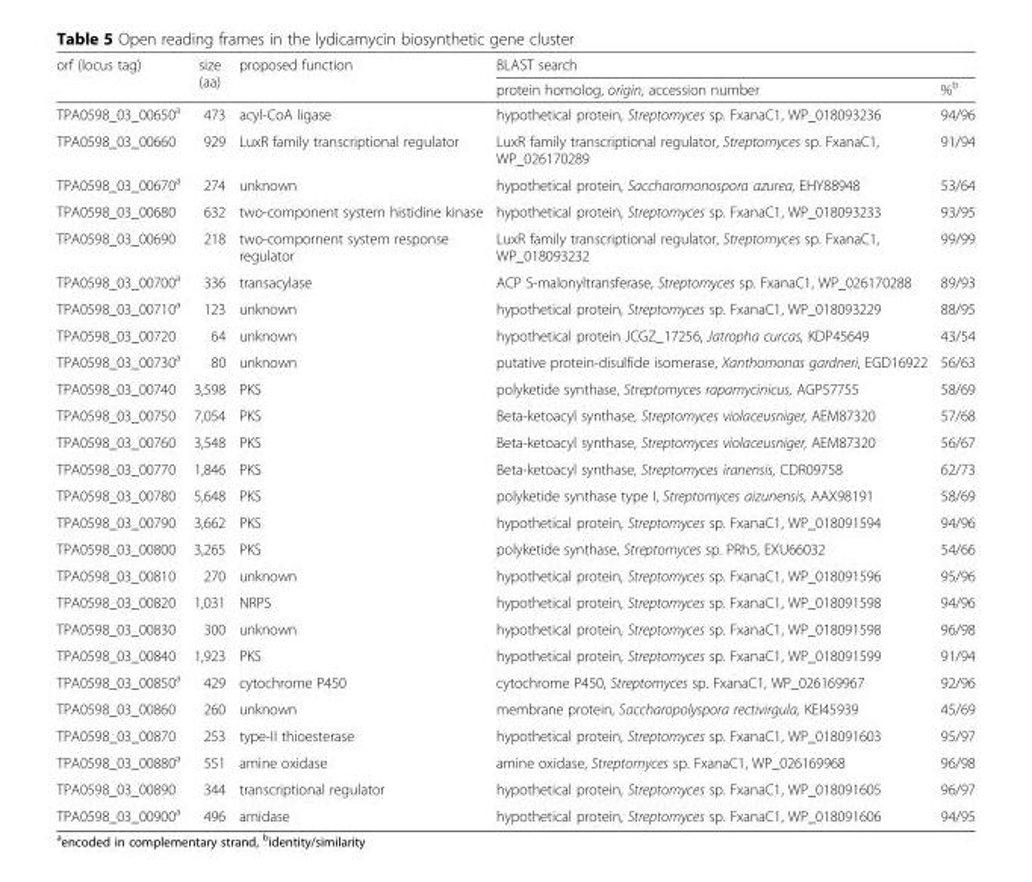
<table><thead><tr><td rowspan="2">orf (locus tag)</td><td rowspan="2">size (aa)</td><td rowspan="2">proposed function</td><td colspan="2">BLAST search</td></tr><tr><td>protein homolog, origin, accession number</td><td>%<sup>b</sup></td></tr></thead><tbody><tr><td>TPA0598_03_00650<sup>a</sup></td><td>473</td><td>acyl-CoA ligase</td><td>hypothetical protein, Streptomyces sp. FxanaC1, WP_018093236</td><td>94/96</td></tr><tr><td>TPA0598_03_00660</td><td>929</td><td>LuxR family transcriptional regulator</td><td>LuxR family transcriptional regulator, Streptomyces sp. FxanaC1, WP_026170289</td><td>91/94</td></tr><tr><td>TPA0598_03_00670<sup>a</sup></td><td>274</td><td>unknown</td><td>hypothetical protein, Saccharomonospora azurea, EHY88948</td><td>53/64</td></tr><tr><td>TPA0598_03_00680</td><td>632</td><td>two-component system histidine kinase</td><td>hypothetical protein, Streptomyces sp. FxanaC1, WP_018093233</td><td>93/95</td></tr><tr><td>TPA0598_03_00690</td><td>218</td><td>two-compornent system response regulator</td><td>LuxR family transcriptional regulator, Streptomyces sp. FxanaC1, WP_018093232</td><td>99/99</td></tr><tr><td>TPA0598_03_00700<sup>a</sup></td><td>336</td><td>transacylase</td><td>ACP S-malonyltransferase, Streptomyces sp. FxanaC1, WP_026170288</td><td>89/93</td></tr><tr><td>TPA0598_03_00710<sup>a</sup></td><td>123</td><td>unknown</td><td>hypothetical protein, Streptomyces sp. FxanaC1, WP_018093229</td><td>88/95</td></tr><tr><td>TPA0598_03_00720</td><td>64</td><td>unknown</td><td>hypothetical protein JCGZ_17256, Jatropha curcas, KDP45649</td><td>43/54</td></tr><tr><td>TPA0598_03_00730<sup>a</sup></td><td>80</td><td>unknown</td><td>putative protein-disulfide isomerase, Xanthomonas gardneri, EGD16922</td><td>56/63</td></tr><tr><td>TPA0598_03_00740</td><td>3,598</td><td>PKS</td><td>polyketide synthase, Streptomyces rapamycinicus, AGP57755</td><td>58/69</td></tr><tr><td>TPA0598_03_00750</td><td>7,054</td><td>PKS</td><td>Beta-ketoacyl synthase, Streptomyces violaceusniger, AEM87320</td><td>57/68</td></tr><tr><td>TPA0598_03_00760</td><td>3,548</td><td>PKS</td><td>Beta-ketoacyl synthase, Streptomyces violaceusniger, AEM87320</td><td>56/67</td></tr><tr><td>TPA0598_03_00770</td><td>1,846</td><td>PKS</td><td>Beta-ketoacyl synthase, Streptomyces iranensis, CDR09758</td><td>62/73</td></tr><tr><td>TPA0598_03_00780</td><td>5,648</td><td>PKS</td><td>polyketide synthase type I, Streptomyces aizunensis, AAX98191</td><td>58/69</td></tr><tr><td>TPA0598_03_00790</td><td>3,662</td><td>PKS</td><td>hypothetical protein, Streptomyces sp. FxanaC1, WP_018091594</td><td>94/96</td></tr><tr><td>TPA0598_03_00800</td><td>3,265</td><td>PKS</td><td>polyketide synthase, Streptomyces sp. PRh5, EXU66032</td><td>54/66</td></tr><tr><td>TPA0598_03_00810</td><td>270</td><td>unknown</td><td>hypothetical protein, Streptomyces sp. FxanaC1, WP_018091596</td><td>95/96</td></tr><tr><td>TPA0598_03_00820</td><td>1,031</td><td>NRPS</td><td>hypothetical protein, Streptomyces sp. FxanaC1, WP_018091598</td><td>94/96</td></tr><tr><td>TPA0598_03_00830</td><td>300</td><td>unknown</td><td>hypothetical protein, Streptomyces sp. FxanaC1, WP_018091598</td><td>96/98</td></tr><tr><td>TPA0598_03_00840</td><td>1,923</td><td>PKS</td><td>hypothetical protein, Streptomyces sp. FxanaC1, WP_018091599</td><td>91/94</td></tr><tr><td>TPA0598_03_00850<sup>a</sup></td><td>429</td><td>cytochrome P450</td><td>cytochrome P450, Streptomyces sp. FxanaC1, WP_026169967</td><td>92/96</td></tr><tr><td>TPA0598_03_00860</td><td>260</td><td>unknown</td><td>membrane protein, Saccharopolyspora rectivirgula, KEI45939</td><td>45/69</td></tr><tr><td>TPA0598_03_00870</td><td>253</td><td>type-II thioesterase</td><td>hypothetical protein, Streptomyces sp. FxanaC1, WP_018091603</td><td>95/97</td></tr><tr><td>TPA0598_03_00880<sup>a</sup></td><td>551</td><td>amine oxidase</td><td>amine oxidase, Streptomyces sp. FxanaC1, WP_026169968</td><td>96/98</td></tr><tr><td>TPA0598_03_00890</td><td>344</td><td>transcriptional regulator</td><td>hypothetical protein, Streptomyces sp. FxanaC1, WP_018091605</td><td>96/97</td></tr><tr><td>TPA0598_03_00900<sup>a</sup></td><td>496</td><td>amidase</td><td>hypothetical protein, Streptomyces sp. FxanaC1, WP_018091606</td><td>94/95</td></tr></tbody></table>